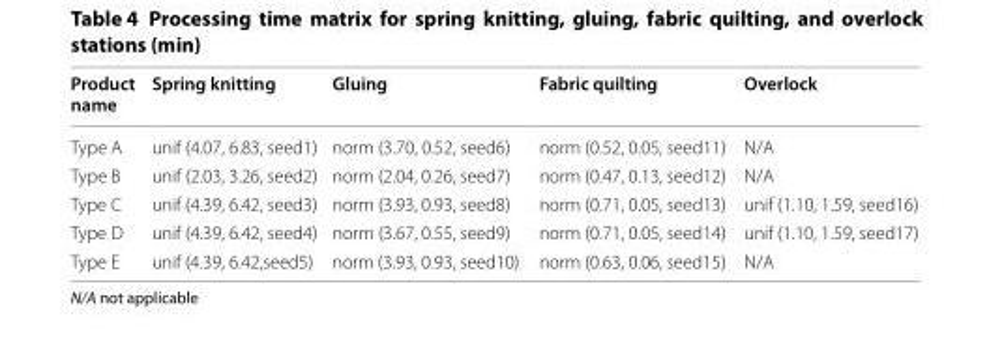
<table><thead><tr><td>Product name</td><td>Spring knitting</td><td>Gluing</td><td>Fabric quilting</td><td>Overlock</td></tr></thead><tbody><tr><td>Type A</td><td>unif (4.07, 6.83, seed1)</td><td>norm (3.70, 0.52, seed6)</td><td>norm (0.52, 0.05, seed11)</td><td>N/A</td></tr><tr><td>Type B</td><td>unif (2.03, 3.26, seed2)</td><td>norm (2.04, 0.26, seed7)</td><td>norm (0.47, 0.13, seed12)</td><td>N/A</td></tr><tr><td>Type C</td><td>unif (4.39, 6.42, seed3)</td><td>norm (3.93, 0.93, seed8)</td><td>norm (0.71, 0.05, seed13)</td><td>unif (1.10, 1.59, seed16)</td></tr><tr><td>Type D</td><td>unif (4.39, 6.42, seed4)</td><td>norm (3.67, 0.55, seed9)</td><td>norm (0.71, 0.05, seed14)</td><td>unif (1.10, 1.59, seed17)</td></tr><tr><td>Type E</td><td>unif (4.39, 6.42,seed5)</td><td>norm (3.93, 0.93, seed10)</td><td>norm (0.63, 0.06, seed15)</td><td>N/A</td></tr></tbody></table>